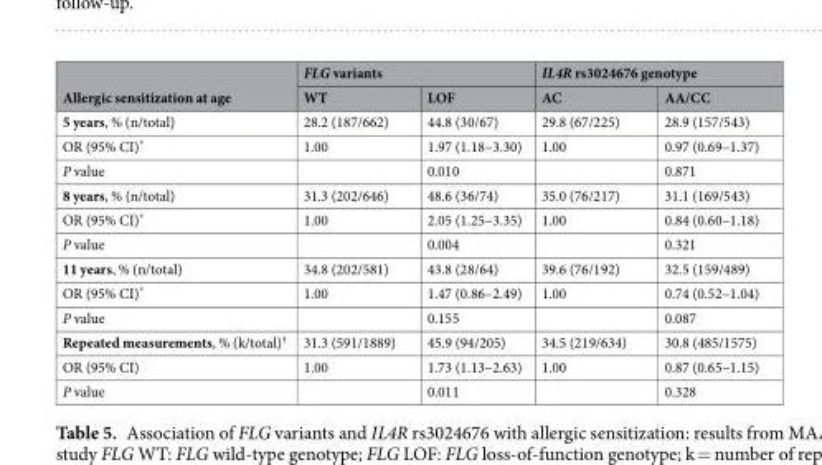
<table><thead><tr><td rowspan="2">Allergic sensitization at age</td><td colspan="2">FLG variants</td><td colspan="2">IL4R rs3024676 genotype</td></tr><tr><td>WT</td><td>LOF</td><td>AC</td><td>AA/CC</td></tr></thead><tbody><tr><td>5 years, % (n/total)</td><td>28.2 (187/662)</td><td>44.8 (30/67)</td><td>29.8 (67/225)</td><td>28.9 (157/543)</td></tr><tr><td>OR (95% CI)*</td><td>1.00</td><td>1.97 (1.18–3.30)</td><td>1.00</td><td>0.97 (0.69–1.37)</td></tr><tr><td>P value</td><td></td><td>0.010</td><td></td><td>0.871</td></tr><tr><td>8 years, % (n/total)</td><td>31.3 (202/646)</td><td>48.6 (36/74)</td><td>35.0 (76/217)</td><td>31.1 (169/543)</td></tr><tr><td>OR (95% CI)*</td><td>1.00</td><td>2.05 (1.25–3.35)</td><td>1.00</td><td>0.84 (0.60–1.18)</td></tr><tr><td>P value</td><td></td><td>0.004</td><td></td><td>0.321</td></tr><tr><td>11 years, % (n/total)</td><td>34.8 (202/581)</td><td>43.8 (28/64)</td><td>39.6 (76/192)</td><td>32.5 (159/489)</td></tr><tr><td>OR (95% CI)*</td><td>1.00</td><td>1.47 (0.86–2.49)</td><td>1.00</td><td>0.74 (0.52–1.04)</td></tr><tr><td>P value</td><td></td><td>0.155</td><td></td><td>0.087</td></tr><tr><td>Repeated measurements, % (k/total)<sup>†</sup></td><td>31.3 (591/1889)</td><td>45.9 (94/205)</td><td>34.5 (219/634)</td><td>30.8 (485/1575)</td></tr><tr><td>OR (95% CI)</td><td>1.00</td><td>1.73 (1.13–2.63)</td><td>1.00</td><td>0.87 (0.65–1.15)</td></tr><tr><td>P value</td><td></td><td>0.011</td><td></td><td>0.328</td></tr></tbody></table>